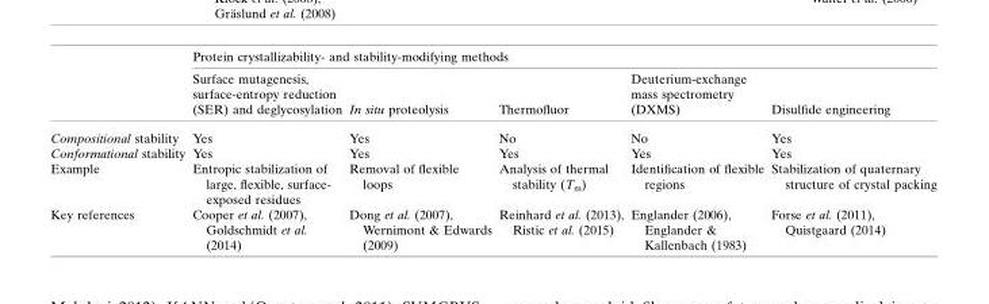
<table><thead><tr><td rowspan="2"></td><td colspan="5">Protein crystallizability- and stability-modifying methods</td></tr><tr><td>Surface mutagenesis, surface-entropy reduction (SER) and deglycosylation</td><td>In situ proteolysis</td><td>Thermofluor</td><td>Deuterium-exchange mass spectrometry (DXMS)</td><td>Disulfide engineering</td></tr></thead><tbody><tr><td>Compositional stability</td><td>Yes</td><td>Yes</td><td>No</td><td>No</td><td>Yes</td></tr><tr><td>Conformational stability</td><td>Yes</td><td>Yes</td><td>Yes</td><td>Yes</td><td>Yes</td></tr><tr><td>Example</td><td>Entropic stabilization of large, flexible, surface- exposed residues</td><td>Removal of flexible loops</td><td>Analysis of thermal stability (T<sub>m</sub>)</td><td>Identification of flexible regions</td><td>Stabilization of quaternary structure of crystal packing</td></tr><tr><td>Key references</td><td>Cooper et al. (2007), Goldschmidt et al. (2014)</td><td>Dong et al. (2007), Wernimont &amp; Edwards (2009)</td><td>Reinhard et al. (2013), Ristic et al. (2015)</td><td>Englander (2006), Englander &amp; Kallenbach (1983)</td><td>Forse et al. (2011), Quistgaard (2014)</td></tr></tbody></table>